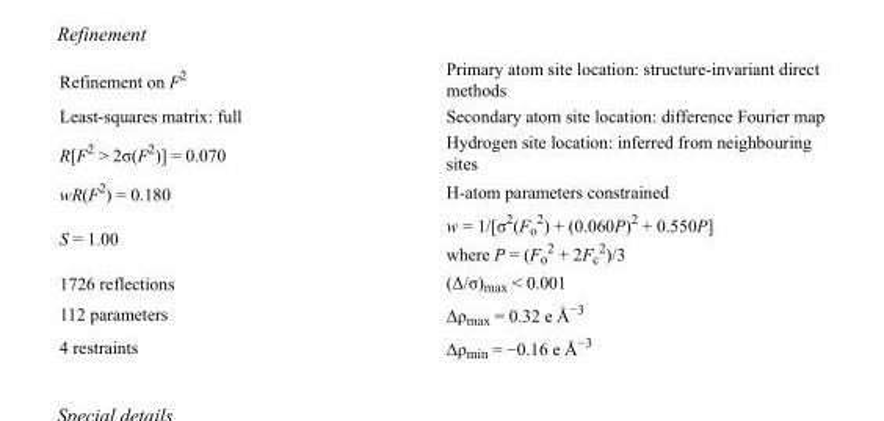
<table><tbody><tr><td>Refinement on F<sup>2</sup></td><td>Primary atom site location: structure-invariant direct methods</td></tr><tr><td>Least-squares matrix: full</td><td>Secondary atom site location: difference Fourier map</td></tr><tr><td>R[F<sup>2</sup> &gt; 2σ(F<sup>2</sup>)] = 0.070</td><td>Hydrogen site location: inferred from neighbouring sites</td></tr><tr><td>wR(F<sup>2</sup>) = 0.180</td><td>H-atom parameters constrained</td></tr><tr><td>S = 1.00</td><td>w = 1/[σ<sup>2</sup>(F<sub>o</sub> <sup>2</sup>) + (0.060P)<sup>2</sup> + 0.550P] where P = (F<sub>o</sub> <sup>2</sup> + 2F<sub>c</sub> <sup>2</sup>)/3</td></tr><tr><td>1726 reflections</td><td>(Δ/σ)<sub>max</sub> &lt; 0.001</td></tr><tr><td>112 parameters</td><td>Δρ<sub>max</sub> = 0.32 e Å<sup>−3</sup></td></tr><tr><td>4 restraints</td><td>Δρ<sub>min</sub> = −0.16 e Å<sup>−3</sup></td></tr></tbody></table>